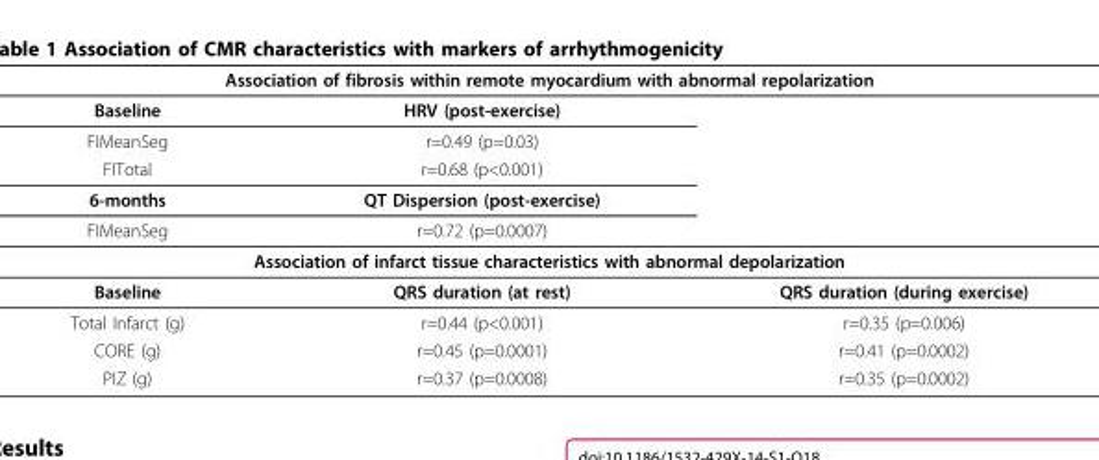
<table><thead><tr><td colspan="3">Association of fibrosis within remote myocardium with abnormal repolarization</td></tr><tr><td>Baseline</td><td>HRV (post-exercise)</td><td></td></tr></thead><tbody><tr><td>FIMeanSeg</td><td>r=0.49 (p=0.03)</td><td></td></tr><tr><td>FITotal</td><td>r=0.68 (p&lt;0.001)</td><td></td></tr><tr><td>6-months</td><td>QT Dispersion (post-exercise)</td><td></td></tr><tr><td>FIMeanSeg</td><td>r=0.72 (p=0.0007)</td><td></td></tr><tr><td colspan="3">Association of infarct tissue characteristics with abnormal depolarization</td></tr><tr><td>Baseline</td><td>QRS duration (at rest)</td><td>QRS duration (during exercise)</td></tr><tr><td>Total Infarct (g)</td><td>r=0.44 (p&lt;0.001)</td><td>r=0.35 (p=0.006)</td></tr><tr><td>CORE (g)</td><td>r=0.45 (p=0.0001)</td><td>r=0.41 (p=0.0002)</td></tr><tr><td>PIZ (g)</td><td>r=0.37 (p=0.0008)</td><td>r=0.35 (p=0.0002)</td></tr></tbody></table>